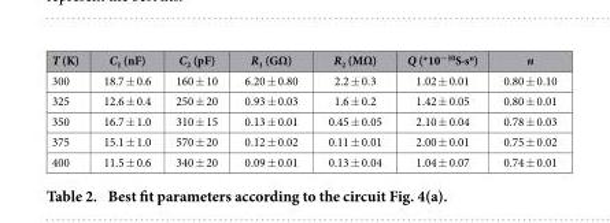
<table><thead><tr><td>T (K)</td><td>C<sub>1</sub> (nF)</td><td>C<sub>2</sub> (pF)</td><td>R<sub>1</sub> (GΩ)</td><td>R<sub>2</sub> (MΩ)</td><td>Q (*10<sup>−10</sup>S·s<sup>n</sup>)</td><td>n</td></tr></thead><tbody><tr><td>300</td><td>18.7 ± 0.6</td><td>160 ± 10</td><td>6.20 ± 0.80</td><td>2.2 ± 0.3</td><td>1.02 ± 0.01</td><td>0.80 ± 0.10</td></tr><tr><td>325</td><td>12.6 ± 0.4</td><td>250 ± 20</td><td>0.93 ± 0.03</td><td>1.6 ± 0.2</td><td>1.42 ± 0.05</td><td>0.80 ± 0.01</td></tr><tr><td>350</td><td>16.7 ± 1.0</td><td>310 ± 15</td><td>0.13 ± 0.01</td><td>0.45 ± 0.05</td><td>2.10 ± 0.04</td><td>0.78 ± 0.03</td></tr><tr><td>375</td><td>15.1 ± 1.0</td><td>570 ± 20</td><td>0.12 ± 0.02</td><td>0.11 ± 0.01</td><td>2.00 ± 0.01</td><td>0.75 ± 0.02</td></tr><tr><td>400</td><td>11.5 ± 0.6</td><td>340 ± 20</td><td>0.09 ± 0.01</td><td>0.13 ± 0.04</td><td>1.04 ± 0.07</td><td>0.74 ± 0.01</td></tr></tbody></table>